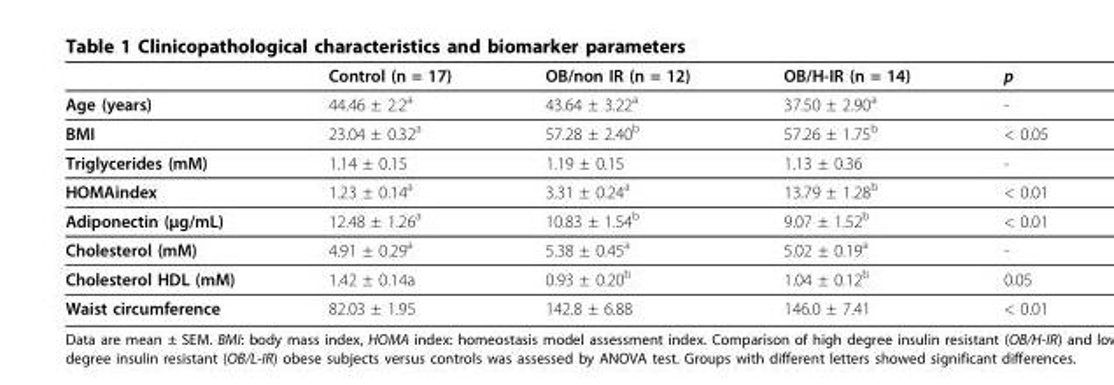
<table><thead><tr><td></td><td>Control (n = 17)</td><td>OB/non IR (n = 12)</td><td>OB/H-IR (n = 14)</td><td>p</td></tr></thead><tbody><tr><td>Age (years)</td><td>44.46 ± 2.2<sup>a</sup></td><td>43.64 ± 3.22<sup>a</sup></td><td>37.50 ± 2.90<sup>a</sup></td><td>-</td></tr><tr><td>BMI</td><td>23.04 ± 0.32<sup>a</sup></td><td>57.28 ± 2.40<sup>b</sup></td><td>57.26 ± 1.75<sup>b</sup></td><td>&lt; 0.05</td></tr><tr><td>Triglycerides (mM)</td><td>1.14 ± 0.15</td><td>1.19 ± 0.15</td><td>1.13 ± 0.36</td><td>-</td></tr><tr><td>HOMAindex</td><td>1.23 ± 0.14<sup>a</sup></td><td>3.31 ± 0.24<sup>a</sup></td><td>13.79 ± 1.28<sup>b</sup></td><td>&lt; 0.01</td></tr><tr><td>Adiponectin (μg/mL)</td><td>12.48 ± 1.26<sup>a</sup></td><td>10.83 ± 1.54<sup>b</sup></td><td>9.07 ± 1.52<sup>b</sup></td><td>&lt; 0.01</td></tr><tr><td>Cholesterol (mM)</td><td>4.91 ± 0.29<sup>a</sup></td><td>5.38 ± 0.45<sup>a</sup></td><td>5.02 ± 0.19<sup>a</sup></td><td>-</td></tr><tr><td>Cholesterol HDL (mM)</td><td>1.42 ± 0.14a</td><td>0.93 ± 0.20<sup>b</sup></td><td>1.04 ± 0.12<sup>b</sup></td><td>0.05</td></tr><tr><td>Waist circumference</td><td>82.03 ± 1.95</td><td>142.8 ± 6.88</td><td>146.0 ± 7.41</td><td>&lt; 0.01</td></tr></tbody></table>